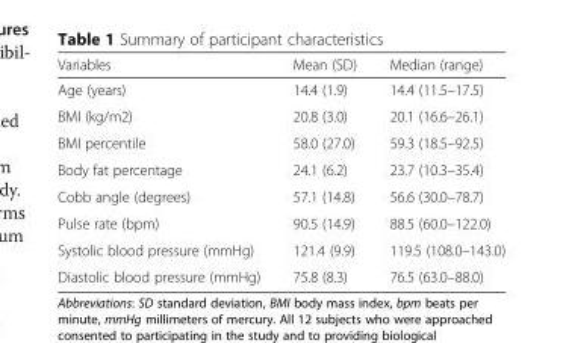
<table><thead><tr><td>Variables</td><td>Mean (SD)</td><td>Median (range)</td></tr></thead><tbody><tr><td>Age (years)</td><td>14.4 (1.9)</td><td>14.4 (11.5–17.5)</td></tr><tr><td>BMI (kg/m2)</td><td>20.8 (3.0)</td><td>20.1 (16.6–26.1)</td></tr><tr><td>BMI percentile</td><td>58.0 (27.0)</td><td>59.3 (18.5–92.5)</td></tr><tr><td>Body fat percentage</td><td>24.1 (6.2)</td><td>23.7 (10.3–35.4)</td></tr><tr><td>Cobb angle (degrees)</td><td>57.1 (14.8)</td><td>56.6 (30.0–78.7)</td></tr><tr><td>Pulse rate (bpm)</td><td>90.5 (14.9)</td><td>88.5 (60.0–122.0)</td></tr><tr><td>Systolic blood pressure (mmHg)</td><td>121.4 (9.9)</td><td>119.5 (108.0–143.0)</td></tr><tr><td>Diastolic blood pressure (mmHg)</td><td>75.8 (8.3)</td><td>76.5 (63.0–88.0)</td></tr></tbody></table>